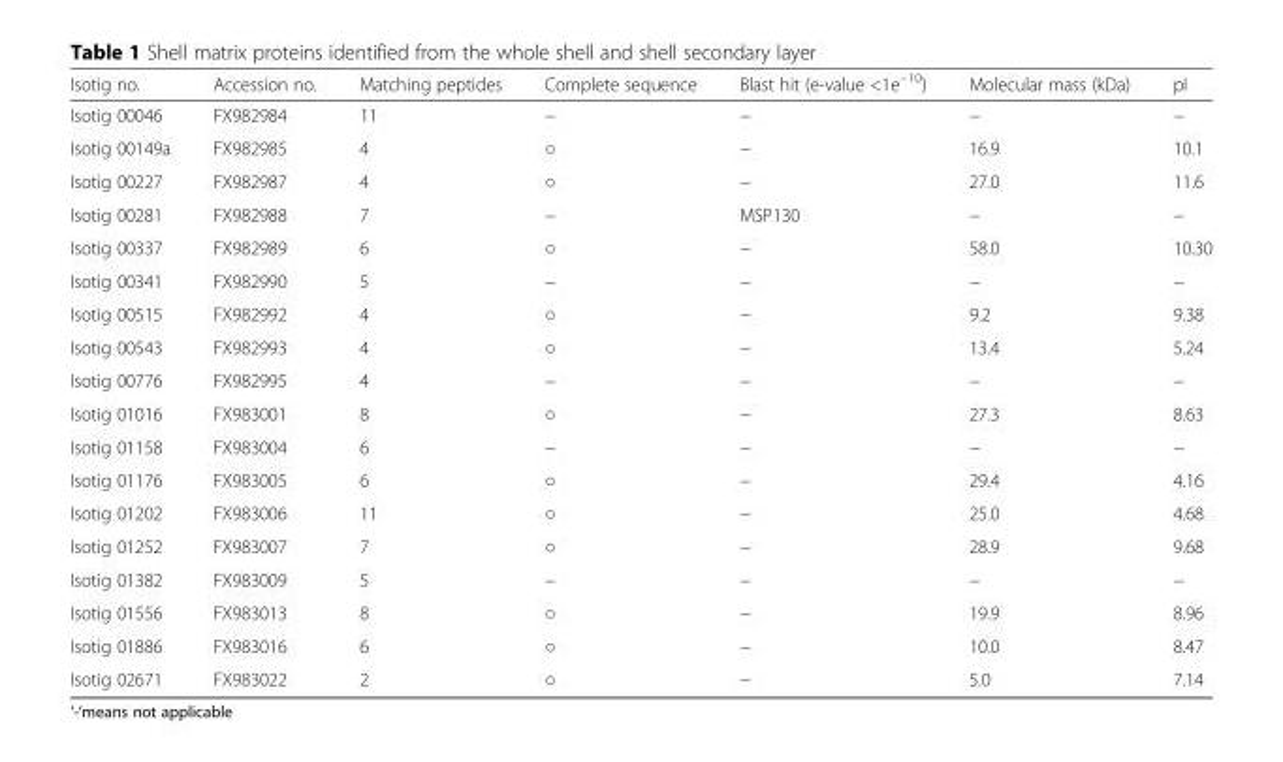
<table><thead><tr><td>Isotig no.</td><td>Accession no.</td><td>Matching peptides</td><td>Complete sequence</td><td>Blast hit (e-value &lt;1e<sup>−10</sup>)</td><td>Molecular mass (kDa)</td><td>pI</td></tr></thead><tbody><tr><td>Isotig 00046</td><td>FX982984</td><td>11</td><td>−</td><td>−</td><td>−</td><td>−</td></tr><tr><td>Isotig 00149a</td><td>FX982985</td><td>4</td><td>○</td><td>−</td><td>16.9</td><td>10.1</td></tr><tr><td>Isotig 00227</td><td>FX982987</td><td>4</td><td>○</td><td>−</td><td>27.0</td><td>11.6</td></tr><tr><td>Isotig 00281</td><td>FX982988</td><td>7</td><td>−</td><td>MSP130</td><td>−</td><td>−</td></tr><tr><td>Isotig 00337</td><td>FX982989</td><td>6</td><td>○</td><td>−</td><td>58.0</td><td>10.30</td></tr><tr><td>Isotig 00341</td><td>FX982990</td><td>5</td><td>−</td><td>−</td><td>−</td><td>−</td></tr><tr><td>Isotig 00515</td><td>FX982992</td><td>4</td><td>○</td><td>−</td><td>9.2</td><td>9.38</td></tr><tr><td>Isotig 00543</td><td>FX982993</td><td>4</td><td>○</td><td>−</td><td>13.4</td><td>5.24</td></tr><tr><td>Isotig 00776</td><td>FX982995</td><td>4</td><td>−</td><td>−</td><td>−</td><td>−</td></tr><tr><td>Isotig 01016</td><td>FX983001</td><td>8</td><td>○</td><td>−</td><td>27.3</td><td>8.63</td></tr><tr><td>Isotig 01158</td><td>FX983004</td><td>6</td><td>−</td><td>−</td><td>−</td><td>−</td></tr><tr><td>Isotig 01176</td><td>FX983005</td><td>6</td><td>○</td><td>−</td><td>29.4</td><td>4.16</td></tr><tr><td>Isotig 01202</td><td>FX983006</td><td>11</td><td>○</td><td>−</td><td>25.0</td><td>4.68</td></tr><tr><td>Isotig 01252</td><td>FX983007</td><td>7</td><td>○</td><td>−</td><td>28.9</td><td>9.68</td></tr><tr><td>Isotig 01382</td><td>FX983009</td><td>5</td><td>−</td><td>−</td><td>−</td><td>−</td></tr><tr><td>Isotig 01556</td><td>FX983013</td><td>8</td><td>○</td><td>−</td><td>19.9</td><td>8.96</td></tr><tr><td>Isotig 01886</td><td>FX983016</td><td>6</td><td>○</td><td>−</td><td>10.0</td><td>8.47</td></tr><tr><td>Isotig 02671</td><td>FX983022</td><td>2</td><td>○</td><td>−</td><td>5.0</td><td>7.14</td></tr></tbody></table>